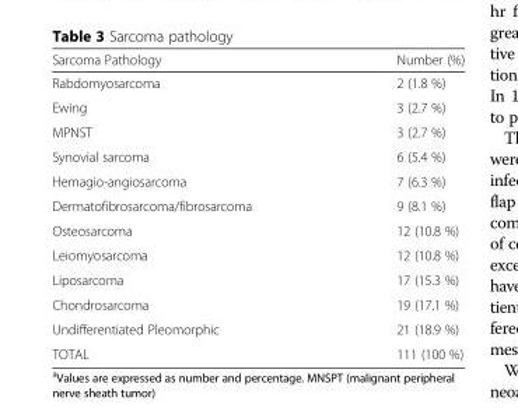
<table><thead><tr><td>Sarcoma Pathology</td><td>Number (%)</td></tr></thead><tbody><tr><td>Rabdomyosarcoma</td><td>2 (1.8 %)</td></tr><tr><td>Ewing</td><td>3 (2.7 %)</td></tr><tr><td>MPNST</td><td>3 (2.7 %)</td></tr><tr><td>Synovial sarcoma</td><td>6 (5.4 %)</td></tr><tr><td>Hemagio-angiosarcoma</td><td>7 (6.3 %)</td></tr><tr><td>Dermatofibrosarcoma/fibrosarcoma</td><td>9 (8.1 %)</td></tr><tr><td>Osteosarcoma</td><td>12 (10.8 %)</td></tr><tr><td>Leiomyosarcoma</td><td>12 (10.8 %)</td></tr><tr><td>Liposarcoma</td><td>17 (15.3 %)</td></tr><tr><td>Chondrosarcoma</td><td>19 (17.1 %)</td></tr><tr><td>Undifferentiated Pleomorphic</td><td>21 (18.9 %)</td></tr><tr><td>TOTAL</td><td>111 (100 %)</td></tr></tbody></table>